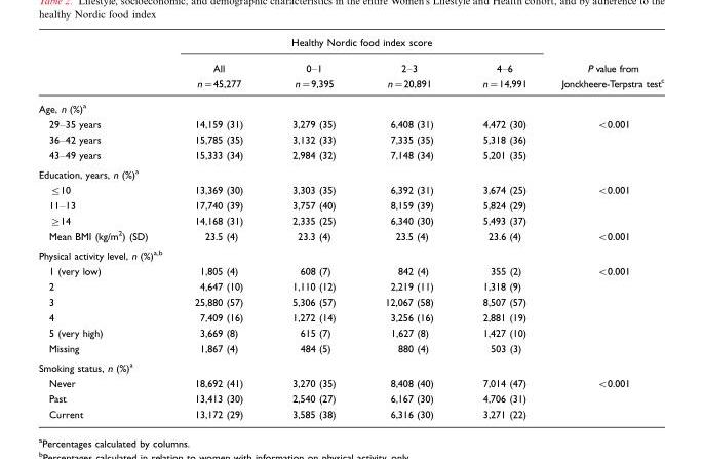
<table><thead><tr><td rowspan="2"></td><td colspan="4">Healthy Nordic food index score</td><td rowspan="2">P value from Jonckheere-Terpstra test<sup>c</sup></td></tr><tr><td>All n=45,277</td><td>0–1 n=9,395</td><td>2–3 n=20,891</td><td>4–6 n=14,991</td></tr></thead><tbody><tr><td colspan="6">Age, n (%)<sup>a</sup></td></tr><tr><td>29–35 years</td><td>14,159 (31)</td><td>3,279 (35)</td><td>6,408 (31)</td><td>4,472 (30)</td><td>&lt;0.001</td></tr><tr><td>36–42 years</td><td>15,785 (35)</td><td>3,132 (33)</td><td>7,335 (35)</td><td>5,318 (36)</td><td></td></tr><tr><td>43–49 years</td><td>15,333 (34)</td><td>2,984 (32)</td><td>7,148 (34)</td><td>5,201 (35)</td><td></td></tr><tr><td colspan="6">Education, years, n (%)<sup>a</sup></td></tr><tr><td>≤10</td><td>13,369 (30)</td><td>3,303 (35)</td><td>6,392 (31)</td><td>3,674 (25)</td><td>&lt;0.001</td></tr><tr><td>11–13</td><td>17,740 (39)</td><td>3,757 (40)</td><td>8,159 (39)</td><td>5,824 (29)</td><td></td></tr><tr><td>≥14</td><td>14,168 (31)</td><td>2,335 (25)</td><td>6,340 (30)</td><td>5,493 (37)</td><td></td></tr><tr><td>Mean BMI (kg/m<sup>2</sup>) (SD)</td><td>23.5 (4)</td><td>23.3 (4)</td><td>23.5 (4)</td><td>23.6 (4)</td><td>&lt;0.001</td></tr><tr><td colspan="6">Physical activity level, n (%)a,b</td></tr><tr><td>1 (very low)</td><td>1,805 (4)</td><td>608 (7)</td><td>842 (4)</td><td>355 (2)</td><td>&lt;0.001</td></tr><tr><td>2</td><td>4,647 (10)</td><td>1,110 (12)</td><td>2,219 (11)</td><td>1,318 (9)</td><td></td></tr><tr><td>3</td><td>25,880 (57)</td><td>5,306 (57)</td><td>12,067 (58)</td><td>8,507 (57)</td><td></td></tr><tr><td>4</td><td>7,409 (16)</td><td>1,272 (14)</td><td>3,256 (16)</td><td>2,881 (19)</td><td></td></tr><tr><td>5 (very high)</td><td>3,669 (8)</td><td>615 (7)</td><td>1,627 (8)</td><td>1,427 (10)</td><td></td></tr><tr><td>Missing</td><td>1,867 (4)</td><td>484 (5)</td><td>880 (4)</td><td>503 (3)</td><td></td></tr><tr><td colspan="6">Smoking status, n (%)<sup>a</sup></td></tr><tr><td>Never</td><td>18,692 (41)</td><td>3,270 (35)</td><td>8,408 (40)</td><td>7,014 (47)</td><td>&lt;0.001</td></tr><tr><td>Past</td><td>13,413 (30)</td><td>2,540 (27)</td><td>6,167 (30)</td><td>4,706 (31)</td><td></td></tr><tr><td>Current</td><td>13,172 (29)</td><td>3,585 (38)</td><td>6,316 (30)</td><td>3,271 (22)</td><td></td></tr></tbody></table>